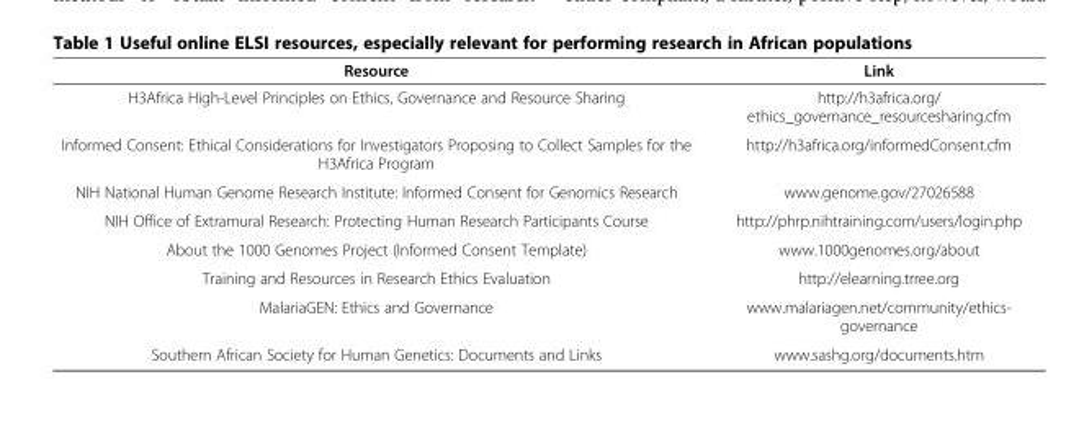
<table><thead><tr><td>Resource</td><td>Link</td></tr></thead><tbody><tr><td>H3Africa High-Level Principles on Ethics, Governance and Resource Sharing</td><td>http://h3africa.org/ ethics_governance_resourcesharing.cfm</td></tr><tr><td>Informed Consent: Ethical Considerations for Investigators Proposing to Collect Samples for the H3Africa Program</td><td>http://h3africa.org/informedConsent.cfm</td></tr><tr><td>NIH National Human Genome Research Institute: Informed Consent for Genomics Research</td><td>www.genome.gov/27026588</td></tr><tr><td>NIH Office of Extramural Research: Protecting Human Research Participants Course</td><td>http://phrp.nihtraining.com/users/login.php</td></tr><tr><td>About the 1000 Genomes Project (Informed Consent Template)</td><td>www.1000genomes.org/about</td></tr><tr><td>Training and Resources in Research Ethics Evaluation</td><td>http://elearning.trree.org</td></tr><tr><td>MalariaGEN: Ethics and Governance</td><td>www.malariagen.net/community/ethics- governance</td></tr><tr><td>Southern African Society for Human Genetics: Documents and Links</td><td>www.sashg.org/documents.htm</td></tr></tbody></table>